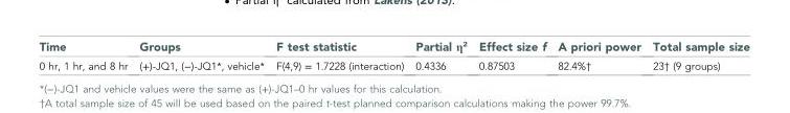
<table><thead><tr><td>Time</td><td>Groups</td><td>F test statistic</td><td>Partial η<sup>2</sup></td><td>Effect size f</td><td>A priori power</td><td>Total sample size</td></tr></thead><tbody><tr><td>0 hr, 1 hr, and 8 hr</td><td>(+)-JQ1, (−)-JQ1*, vehicle*</td><td>F(4,9) = 1.7228 (interaction)</td><td>0.4336</td><td>0.87503</td><td>82.4%†</td><td>23† (9 groups)</td></tr></tbody></table>